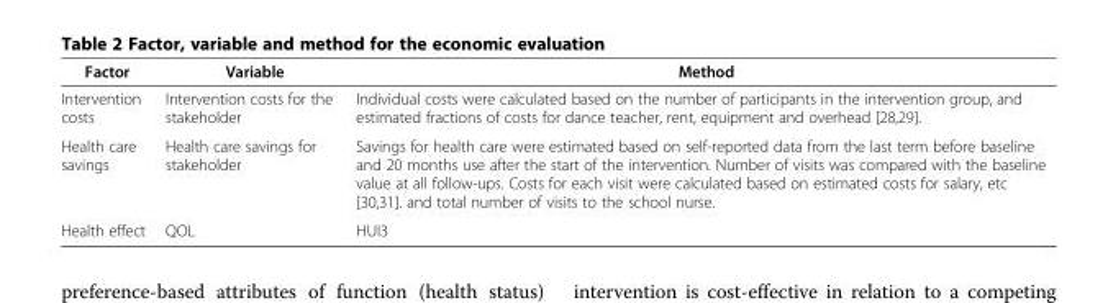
<table><thead><tr><td>Factor</td><td>Variable</td><td>Method</td></tr></thead><tbody><tr><td>Intervention costs</td><td>Intervention costs for the stakeholder</td><td>Individual costs were calculated based on the number of participants in the intervention group, and estimated fractions of costs for dance teacher, rent, equipment and overhead [28,29].</td></tr><tr><td>Health care savings</td><td>Health care savings for stakeholder</td><td>Savings for health care were estimated based on self-reported data from the last term before baseline and 20 months use after the start of the intervention. Number of visits was compared with the baseline value at all follow-ups. Costs for each visit were calculated based on estimated costs for salary, etc [30,31]. and total number of visits to the school nurse.</td></tr><tr><td>Health effect</td><td>QOL</td><td>HUI3</td></tr></tbody></table>